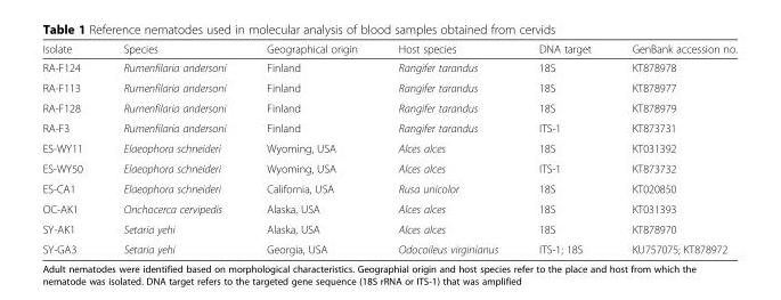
<table><thead><tr><td>Isolate</td><td>Species</td><td>Geographical origin</td><td>Host species</td><td>DNA target</td><td>GenBank accession no.</td></tr></thead><tbody><tr><td>RA-F124</td><td>Rumenfilaria andersoni</td><td>Finland</td><td>Rangifer tarandus</td><td>18S</td><td>KT878978</td></tr><tr><td>RA-F113</td><td>Rumenfilaria andersoni</td><td>Finland</td><td>Rangifer tarandus</td><td>18S</td><td>KT878977</td></tr><tr><td>RA-F128</td><td>Rumenfilaria andersoni</td><td>Finland</td><td>Rangifer tarandus</td><td>18S</td><td>KT878979</td></tr><tr><td>RA-F3</td><td>Rumenfilaria andersoni</td><td>Finland</td><td>Rangifer tarandus</td><td>ITS-1</td><td>KT873731</td></tr><tr><td>ES-WY11</td><td>Elaeophora schneideri</td><td>Wyoming, USA</td><td>Alces alces</td><td>18S</td><td>KT031392</td></tr><tr><td>ES-WY50</td><td>Elaeophora schneideri</td><td>Wyoming, USA</td><td>Alces alces</td><td>ITS-1</td><td>KT873732</td></tr><tr><td>ES-CA1</td><td>Elaeophora schneideri</td><td>California, USA</td><td>Rusa unicolor</td><td>18S</td><td>KT020850</td></tr><tr><td>OC-AK1</td><td>Onchocerca cervipedis</td><td>Alaska, USA</td><td>Alces alces</td><td>18S</td><td>KT031393</td></tr><tr><td>SY-AK1</td><td>Setaria yehi</td><td>Alaska, USA</td><td>Alces alces</td><td>18S</td><td>KT878970</td></tr><tr><td>SY-GA3</td><td>Setaria yehi</td><td>Georgia, USA</td><td>Odocoileus virginianus</td><td>ITS-1; 18S</td><td>KU757075; KT878972</td></tr></tbody></table>